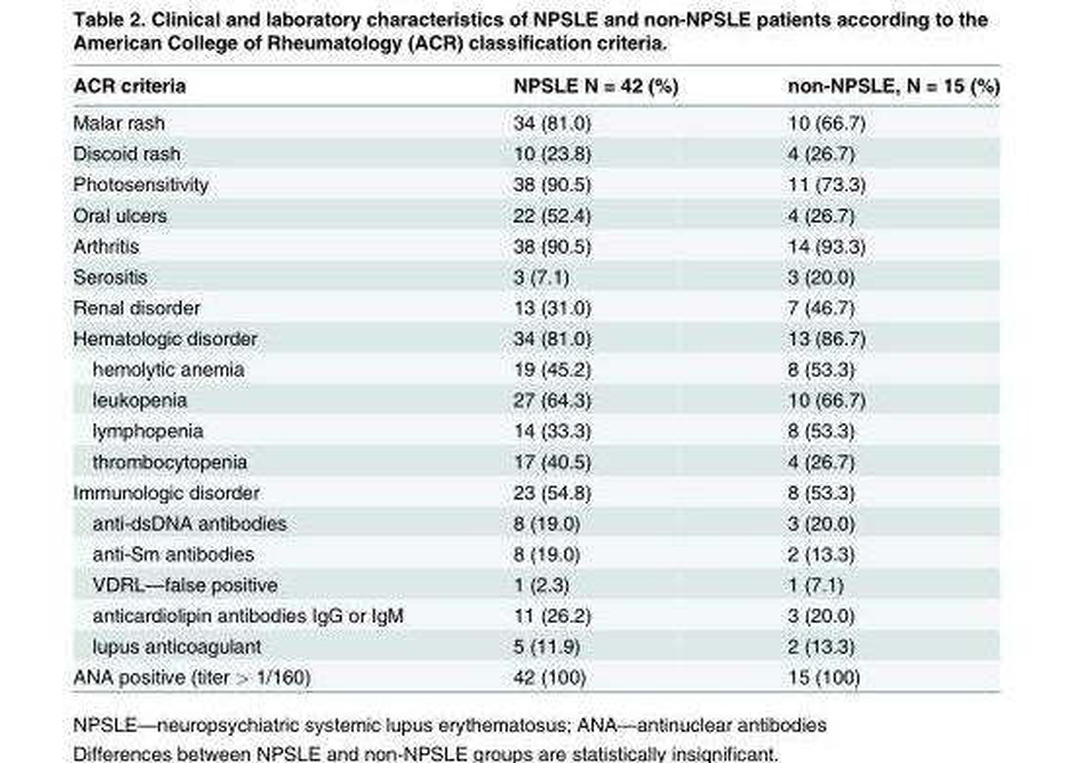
<table><thead><tr><td>ACR criteria</td><td>NPSLE N = 42 (%)</td><td>non-NPSLE, N = 15 (%)</td></tr></thead><tbody><tr><td>Malar rash</td><td>34 (81.0)</td><td>10 (66.7)</td></tr><tr><td>Discoid rash</td><td>10 (23.8)</td><td>4 (26.7)</td></tr><tr><td>Photosensitivity</td><td>38 (90.5)</td><td>11 (73.3)</td></tr><tr><td>Oral ulcers</td><td>22 (52.4)</td><td>4 (26.7)</td></tr><tr><td>Arthritis</td><td>38 (90.5)</td><td>14 (93.3)</td></tr><tr><td>Serositis</td><td>3 (7.1)</td><td>3 (20.0)</td></tr><tr><td>Renal disorder</td><td>13 (31.0)</td><td>7 (46.7)</td></tr><tr><td>Hematologic disorder</td><td>34 (81.0)</td><td>13 (86.7)</td></tr><tr><td>hemolytic anemia</td><td>19 (45.2)</td><td>8 (53.3)</td></tr><tr><td>leukopenia</td><td>27 (64.3)</td><td>10 (66.7)</td></tr><tr><td>lymphopenia</td><td>14 (33.3)</td><td>8 (53.3)</td></tr><tr><td>thrombocytopenia</td><td>17 (40.5)</td><td>4 (26.7)</td></tr><tr><td>Immunologic disorder</td><td>23 (54.8)</td><td>8 (53.3)</td></tr><tr><td>anti-dsDNA antibodies</td><td>8 (19.0)</td><td>3 (20.0)</td></tr><tr><td>anti-Sm antibodies</td><td>8 (19.0)</td><td>2 (13.3)</td></tr><tr><td>VDRL—false positive</td><td>1 (2.3)</td><td>1 (7.1)</td></tr><tr><td>anticardiolipin antibodies IgG or IgM</td><td>11 (26.2)</td><td>3 (20.0)</td></tr><tr><td>lupus anticoagulant</td><td>5 (11.9)</td><td>2 (13.3)</td></tr><tr><td>ANA positive (titer &gt; 1/160)</td><td>42 (100)</td><td>15 (100)</td></tr></tbody></table>